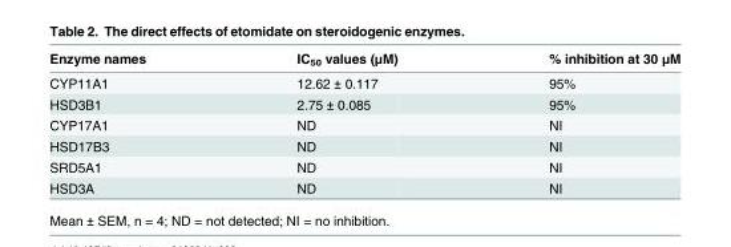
<table><thead><tr><td>Enzyme names</td><td>IC<sub>50</sub> values (μM)</td><td>% inhibition at 30 μM</td></tr></thead><tbody><tr><td>CYP11A1</td><td>12.62 ± 0.117</td><td>95%</td></tr><tr><td>HSD3B1</td><td>2.75 ± 0.085</td><td>95%</td></tr><tr><td>CYP17A1</td><td>ND</td><td>NI</td></tr><tr><td>HSD17B3</td><td>ND</td><td>NI</td></tr><tr><td>SRD5A1</td><td>ND</td><td>NI</td></tr><tr><td>HSD3A</td><td>ND</td><td>NI</td></tr></tbody></table>